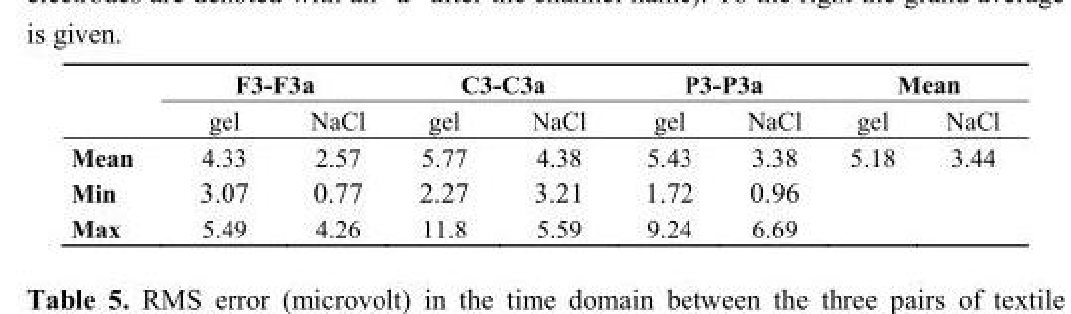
<table><thead><tr><td rowspan="2"></td><td colspan="2">F3-F3a</td><td colspan="2">C3-C3a</td><td colspan="2">P3-P3a</td><td colspan="2">Mean</td></tr><tr><td>gel</td><td>NaCl</td><td>gel</td><td>NaCl</td><td>gel</td><td>NaCl</td><td>gel</td><td>NaCl</td></tr></thead><tbody><tr><td>Mean</td><td>4.33</td><td>2.57</td><td>5.77</td><td>4.38</td><td>5.43</td><td>3.38</td><td>5.18</td><td>3.44</td></tr><tr><td>Min</td><td>3.07</td><td>0.77</td><td>2.27</td><td>3.21</td><td>1.72</td><td>0.96</td><td></td><td></td></tr><tr><td>Max</td><td>5.49</td><td>4.26</td><td>11.8</td><td>5.59</td><td>9.24</td><td>6.69</td><td></td><td></td></tr></tbody></table>